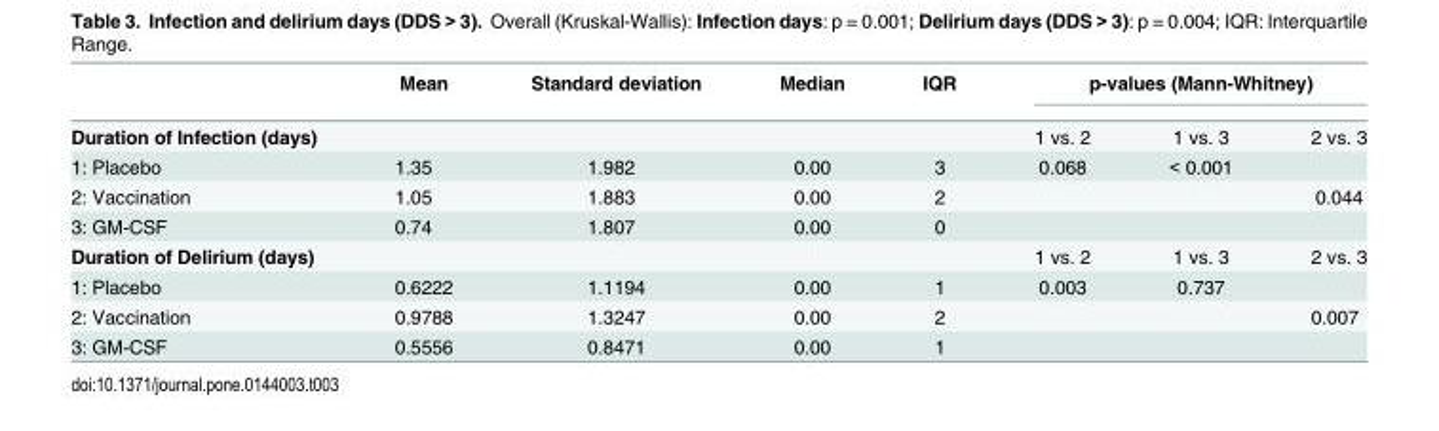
<table><thead><tr><td rowspan="2">Duration of Infection (days)</td><td rowspan="2">Mean</td><td rowspan="2">Standard deviation</td><td rowspan="2">Median</td><td rowspan="2">IQR</td><td colspan="3">p-values (Mann-Whitney)</td></tr><tr><td>1 vs. 2</td><td>1 vs. 3</td><td>2 vs. 3</td></tr></thead><tbody><tr><td>1: Placebo</td><td>1.35</td><td>1.982</td><td>0.00</td><td>3</td><td>0.068</td><td>&lt; 0.001</td><td></td></tr><tr><td>2: Vaccination</td><td>1.05</td><td>1.883</td><td>0.00</td><td>2</td><td></td><td></td><td>0.044</td></tr><tr><td>3: GM-CSF</td><td>0.74</td><td>1.807</td><td>0.00</td><td>0</td><td></td><td></td><td></td></tr><tr><td>Duration of Delirium (days)</td><td></td><td></td><td></td><td></td><td>1 vs. 2</td><td>1 vs. 3</td><td>2 vs. 3</td></tr><tr><td>1: Placebo</td><td>0.6222</td><td>1.1194</td><td>0.00</td><td>1</td><td>0.003</td><td>0.737</td><td></td></tr><tr><td>2: Vaccination</td><td>0.9788</td><td>1.3247</td><td>0.00</td><td>2</td><td></td><td></td><td>0.007</td></tr><tr><td>3: GM-CSF</td><td>0.5556</td><td>0.8471</td><td>0.00</td><td>1</td><td></td><td></td><td></td></tr></tbody></table>